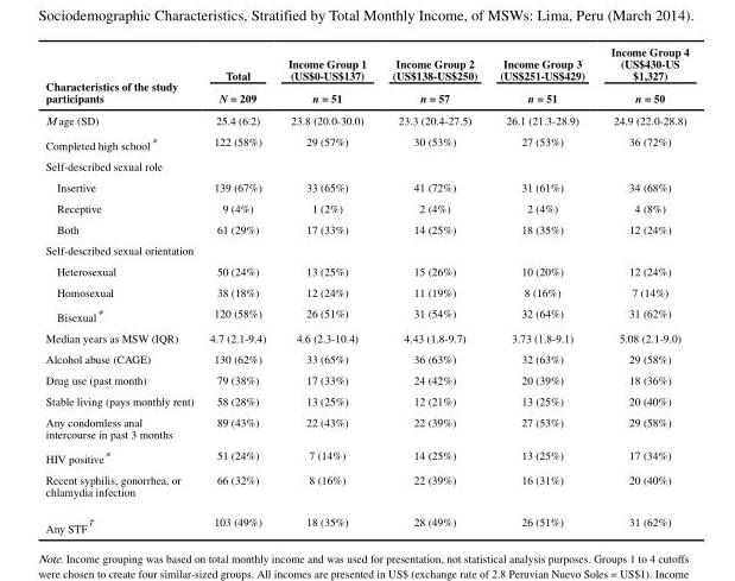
<table><thead><tr><td rowspan="2">Characteristics of the study participants</td><td rowspan="2">Total N = 209</td><td rowspan="2">Income Group 1 (US$0-US$137) n = 51</td><td rowspan="2">Income Group 2 (US$138-US$250) n = 57</td><td rowspan="2">Income Group 3 (US$251-US$429) n = 51</td><td rowspan="2">Income Group 4 (US$430-US $1,327) n = 50</td></tr><tr></tr></thead><tbody><tr><td>M age (SD)</td><td>25.4 (6.2)</td><td>23.8 (20.0-30.0)</td><td>23.3 (20.4-27.5)</td><td>26.1 (21.3-28.9)</td><td>24.9 (22.0-28.8)</td></tr><tr><td>Completed high school*</td><td>122 (58%)</td><td>29 (57%)</td><td>30 (53%)</td><td>27 (53%)</td><td>36 (72%)</td></tr><tr><td colspan="6">Self-described sexual role</td></tr><tr><td>Insertive</td><td>139 (67%)</td><td>33 (65%)</td><td>41 (72%)</td><td>31 (61%)</td><td>34 (68%)</td></tr><tr><td>Receptive</td><td>9 (4%)</td><td>1 (2%)</td><td>2 (4%)</td><td>2 (4%)</td><td>4 (8%)</td></tr><tr><td>Both</td><td>61 (29%)</td><td>17 (33%)</td><td>14 (25%)</td><td>18 (35%)</td><td>12 (24%)</td></tr><tr><td colspan="6">Self-described sexual orientation</td></tr><tr><td>Heterosexual</td><td>50 (24%)</td><td>13 (25%)</td><td>15 (26%)</td><td>10 (20%)</td><td>12 (24%)</td></tr><tr><td>Homosexual</td><td>38 (18%)</td><td>12 (24%)</td><td>11 (19%)</td><td>8 (16%)</td><td>7 (14%)</td></tr><tr><td>Bisexual*</td><td>120 (58%)</td><td>26 (51%)</td><td>31 (54%)</td><td>32 (64%)</td><td>31 (62%)</td></tr><tr><td>Median years as MSW (IQR)</td><td>4.7 (2.1-9.4)</td><td>4.6 (2.3-10.4)</td><td>4.43 (1.8-9.7)</td><td>3.73 (1.8-9.1)</td><td>5.08 (2.1-9.0)</td></tr><tr><td>Alcohol abuse (CAGE)</td><td>130 (62%)</td><td>33 (65%)</td><td>36 (63%)</td><td>32 (63%)</td><td>29 (58%)</td></tr><tr><td>Drug use (past month)</td><td>79 (38%)</td><td>17 (33%)</td><td>24 (42%)</td><td>20 (39%)</td><td>18 (36%)</td></tr><tr><td>Stable living (pays monthly rent)</td><td>58 (28%)</td><td>13 (25%)</td><td>12 (21%)</td><td>13 (25%)</td><td>20 (40%)</td></tr><tr><td>Any condomless anal intercourse in past 3 months</td><td>89 (43%)</td><td>22 (43%)</td><td>22 (39%)</td><td>27 (53%)</td><td>29 (58%)</td></tr><tr><td>HIV positive*</td><td>51 (24%)</td><td>7 (14%)</td><td>14 (25%)</td><td>13 (25%)</td><td>17 (34%)</td></tr><tr><td>Recent syphilis, gonorrhea, or chlamydia infection</td><td>66 (32%)</td><td>8 (16%)</td><td>22 (39%)</td><td>16 (31%)</td><td>20 (40%)</td></tr><tr><td>Any STF<sup>†</sup></td><td>103 (49%)</td><td>18 (35%)</td><td>28 (49%)</td><td>26 (51%)</td><td>31 (62%)</td></tr></tbody></table>